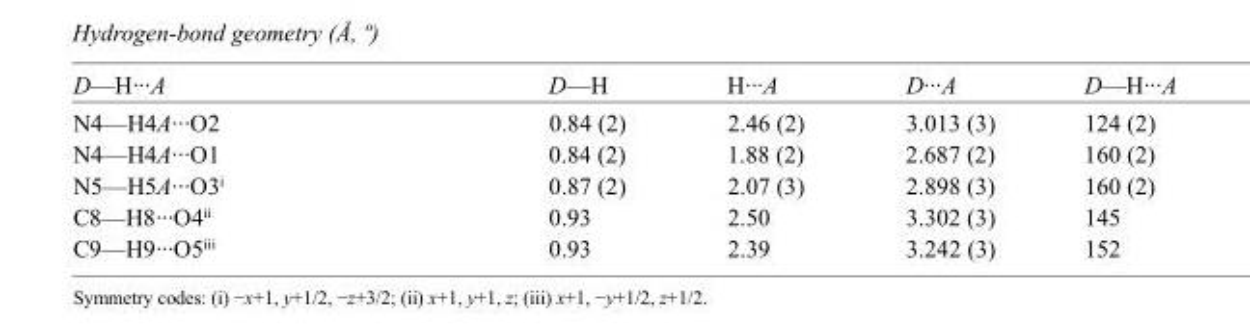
<table><tbody><tr><td>D—H···A</td><td>D—H</td><td>H···A</td><td>D···A</td><td>D—H···A</td></tr><tr><td>N4—H4A···O2</td><td>0.84 (2)</td><td>2.46 (2)</td><td>3.013 (3)</td><td>124 (2)</td></tr><tr><td>N4—H4A···O1</td><td>0.84 (2)</td><td>1.88 (2)</td><td>2.687 (2)</td><td>160 (2)</td></tr><tr><td>N5—H5A···O3<sup>i</sup></td><td>0.87 (2)</td><td>2.07 (3)</td><td>2.898 (3)</td><td>160 (2)</td></tr><tr><td>C8—H8···O4<sup>ii</sup></td><td>0.93</td><td>2.50</td><td>3.302 (3)</td><td>145</td></tr><tr><td>C9—H9···O5<sup>iii</sup></td><td>0.93</td><td>2.39</td><td>3.242 (3)</td><td>152</td></tr></tbody></table>